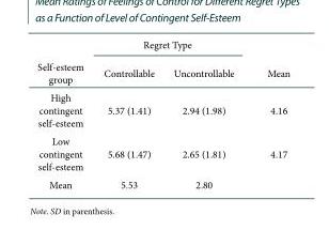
<table><thead><tr><td colspan="4">Regret Type</td></tr><tr><td>Self-esteem group</td><td>Controllable</td><td>Uncontrollable</td><td>Mean</td></tr></thead><tbody><tr><td>High contingent self-esteem</td><td>5.37 (1.41)</td><td>2.94 (1.98)</td><td>4.16</td></tr><tr><td>Low contingent self-esteem</td><td>5.68 (1.47)</td><td>2.65 (1.81)</td><td>4.17</td></tr><tr><td>Mean</td><td>5.53</td><td>2.80</td><td></td></tr></tbody></table>